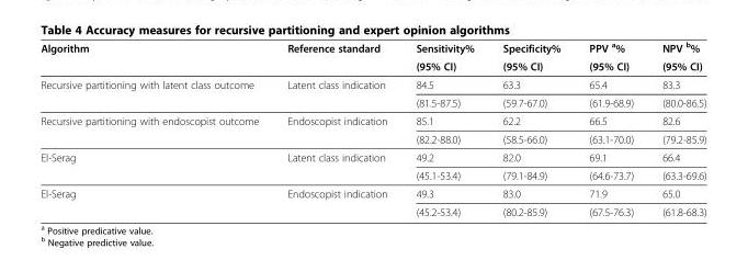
<table><thead><tr><td rowspan="2">Algorithm</td><td rowspan="2">Reference standard</td><td rowspan="2">Sensitivity% (95% CI)</td><td rowspan="2">Specificity% (95% CI)</td><td rowspan="2">PPV <sup>a</sup>% (95% CI)</td><td rowspan="2">NPV <sup>b</sup>% (95% CI)</td></tr><tr></tr></thead><tbody><tr><td rowspan="2">Recursive partitioning with latent class outcome</td><td rowspan="2">Latent class indication</td><td>84.5</td><td>63.3</td><td>65.4</td><td>83.3</td></tr><tr><td>(81.5-87.5)</td><td>(59.7-67.0)</td><td>(61.9-68.9)</td><td>(80.0-86.5)</td></tr><tr><td rowspan="2">Recursive partitioning with endoscopist outcome</td><td rowspan="2">Endoscopist indication</td><td>85.1</td><td>62.2</td><td>66.5</td><td>82.6</td></tr><tr><td>(82.2-88.0)</td><td>(58.5-66.0)</td><td>(63.1-70.0)</td><td>(79.2-85.9)</td></tr><tr><td rowspan="2">El-Serag</td><td rowspan="2">Latent class indication</td><td>49.2</td><td>82.0</td><td>69.1</td><td>66.4</td></tr><tr><td>(45.1-53.4)</td><td>(79.1-84.9)</td><td>(64.6-73.7)</td><td>(63.3-69.6)</td></tr><tr><td rowspan="2">El-Serag</td><td rowspan="2">Endoscopist indication</td><td>49.3</td><td>83.0</td><td>71.9</td><td>65.0</td></tr><tr><td>(45.2-53.4)</td><td>(80.2-85.9)</td><td>(67.5-76.3)</td><td>(61.8-68.3)</td></tr></tbody></table>